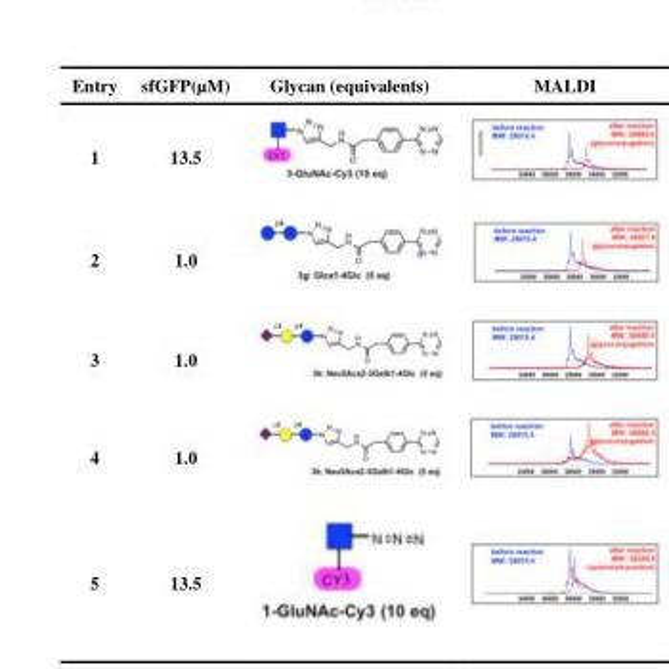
<table><thead><tr><td>Entry</td><td>sfGFP(μM)</td><td>Glycan (equivalents)</td><td>MALDI</td></tr></thead><tbody><tr><td>1</td><td>13.5</td><td></td><td></td></tr><tr><td>2</td><td>1.0</td><td></td><td></td></tr><tr><td>3</td><td>1.0</td><td></td><td></td></tr><tr><td>4</td><td>1.0</td><td></td><td></td></tr><tr><td>5</td><td>13.5</td><td></td><td></td></tr></tbody></table>